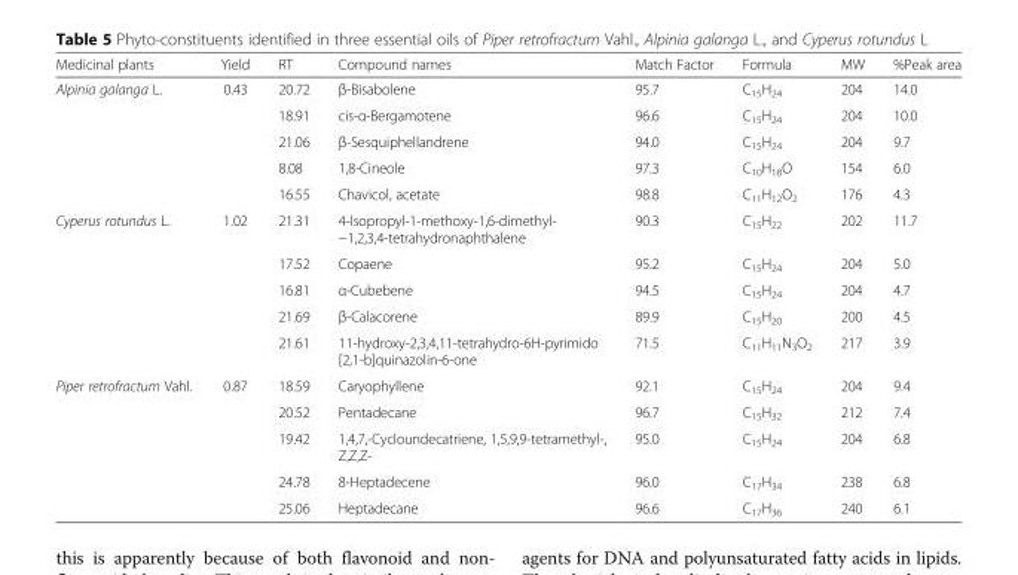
<table><thead><tr><td>Medicinal plants</td><td>Yield</td><td>RT</td><td>Compound names</td><td>Match Factor</td><td>Formula</td><td>MW</td><td>%Peak area</td></tr></thead><tbody><tr><td rowspan="5">Alpinia galanga L.</td><td rowspan="5">0.43</td><td>20.72</td><td>β-Bisabolene</td><td>95.7</td><td>C<sub>15</sub>H<sub>24</sub></td><td>204</td><td>14.0</td></tr><tr><td>18.91</td><td>cis-α-Bergamotene</td><td>96.6</td><td>C<sub>15</sub>H<sub>24</sub></td><td>204</td><td>10.0</td></tr><tr><td>21.06</td><td>β-Sesquiphellandrene</td><td>94.0</td><td>C<sub>15</sub>H<sub>24</sub></td><td>204</td><td>9.7</td></tr><tr><td>8.08</td><td>1,8-Cineole</td><td>97.3</td><td>C<sub>10</sub>H<sub>18</sub>O</td><td>154</td><td>6.0</td></tr><tr><td>16.55</td><td>Chavicol, acetate</td><td>98.8</td><td>C<sub>11</sub>H<sub>12</sub>O<sub>2</sub></td><td>176</td><td>4.3</td></tr><tr><td rowspan="5">Cyperus rotundus L.</td><td rowspan="5">1.02</td><td>21.31</td><td>4-Isopropyl-1-methoxy-1,6-dimethyl- −1,2,3,4-tetrahydronaphthalene</td><td>90.3</td><td>C<sub>15</sub>H<sub>22</sub></td><td>202</td><td>11.7</td></tr><tr><td>17.52</td><td>Copaene</td><td>95.2</td><td>C<sub>15</sub>H<sub>24</sub></td><td>204</td><td>5.0</td></tr><tr><td>16.81</td><td>α-Cubebene</td><td>94.5</td><td>C<sub>15</sub>H<sub>24</sub></td><td>204</td><td>4.7</td></tr><tr><td>21.69</td><td>β-Calacorene</td><td>89.9</td><td>C<sub>15</sub>H<sub>20</sub></td><td>200</td><td>4.5</td></tr><tr><td>21.61</td><td>11-hydroxy-2,3,4,11-tetrahydro-6H-pyrimido [2,1-b]quinazolin-6-one</td><td>71.5</td><td>C<sub>11</sub>H<sub>11</sub>N<sub>3</sub>O<sub>2</sub></td><td>217</td><td>3.9</td></tr><tr><td rowspan="5">Piper retrofractum Vahl.</td><td rowspan="5">0.87</td><td>18.59</td><td>Caryophyllene</td><td>92.1</td><td>C<sub>15</sub>H<sub>24</sub></td><td>204</td><td>9.4</td></tr><tr><td>20.52</td><td>Pentadecane</td><td>96.7</td><td>C<sub>15</sub>H<sub>32</sub></td><td>212</td><td>7.4</td></tr><tr><td>19.42</td><td>1,4,7,-Cycloundecatriene, 1,5,9,9-tetramethyl-, Z,Z,Z-</td><td>95.0</td><td>C<sub>15</sub>H<sub>24</sub></td><td>204</td><td>6.8</td></tr><tr><td>24.78</td><td>8-Heptadecene</td><td>96.0</td><td>C<sub>17</sub>H<sub>34</sub></td><td>238</td><td>6.8</td></tr><tr><td>25.06</td><td>Heptadecane</td><td>96.6</td><td>C<sub>17</sub>H<sub>36</sub></td><td>240</td><td>6.1</td></tr></tbody></table>